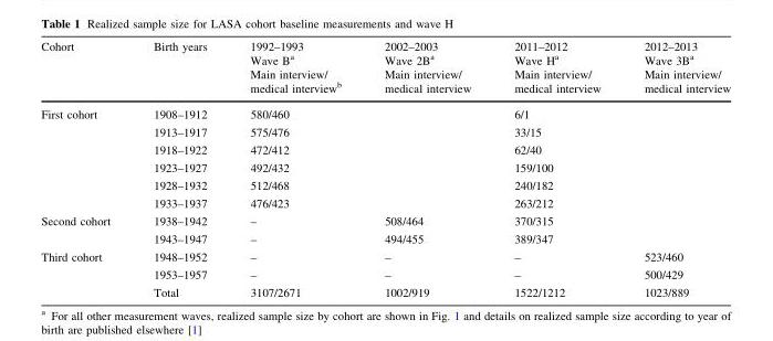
<table><thead><tr><td rowspan="3">Cohort</td><td rowspan="3">Birth years</td><td rowspan="3">1992–1993 Wave B<sup>a</sup> Main interview/ medical interview<sup>b</sup></td><td rowspan="3">2002–2003 Wave 2B<sup>a</sup> Main interview/ medical interview</td><td rowspan="3">2011–2012 Wave H<sup>a</sup> Main interview/ medical interview</td><td rowspan="3">2012–2013 Wave 3B<sup>a</sup> Main interview/ medical interview</td></tr><tr></tr><tr></tr></thead><tbody><tr><td rowspan="6">First cohort</td><td>1908–1912</td><td>580/460</td><td></td><td>6/1</td><td></td></tr><tr><td>1913–1917</td><td>575/476</td><td></td><td>33/15</td><td></td></tr><tr><td>1918–1922</td><td>472/412</td><td></td><td>62/40</td><td></td></tr><tr><td>1923–1927</td><td>492/432</td><td></td><td>159/100</td><td></td></tr><tr><td>1928–1932</td><td>512/468</td><td></td><td>240/182</td><td></td></tr><tr><td>1933–1937</td><td>476/423</td><td></td><td>263/212</td><td></td></tr><tr><td rowspan="2">Second cohort</td><td>1938–1942</td><td>–</td><td>508/464</td><td>370/315</td><td></td></tr><tr><td>1943–1947</td><td>–</td><td>494/455</td><td>389/347</td><td></td></tr><tr><td rowspan="3">Third cohort</td><td>1948–1952</td><td>–</td><td>–</td><td>–</td><td>523/460</td></tr><tr><td>1953–1957</td><td>–</td><td>–</td><td>–</td><td>500/429</td></tr><tr><td>Total</td><td>3107/2671</td><td>1002/919</td><td>1522/1212</td><td>1023/889</td></tr></tbody></table>